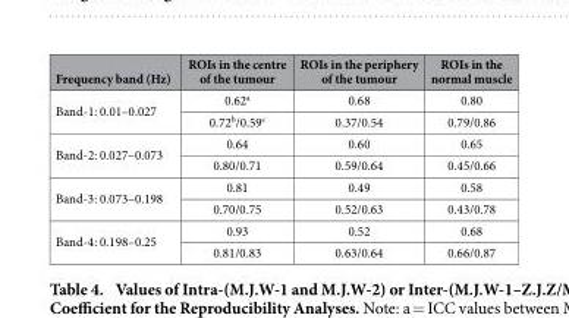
<table><thead><tr><td>Frequency band (Hz)</td><td>ROIs in the centre of the tumour</td><td>ROIs in the periphery of the tumour</td><td>ROIs in the normal muscle</td></tr></thead><tbody><tr><td rowspan="2">Band-1: 0.01–0.027</td><td>0.62<sup>a</sup></td><td>0.68</td><td>0.80</td></tr><tr><td>0.72<sup>b</sup>/0.59<sup>c</sup></td><td>0.37/0.54</td><td>0.79/0.86</td></tr><tr><td rowspan="2">Band-2: 0.027–0.073</td><td>0.64</td><td>0.60</td><td>0.65</td></tr><tr><td>0.80/0.71</td><td>0.59/0.64</td><td>0.45/0.66</td></tr><tr><td rowspan="2">Band-3: 0.073–0.198</td><td>0.81</td><td>0.49</td><td>0.58</td></tr><tr><td>0.70/0.75</td><td>0.52/0.63</td><td>0.43/0.78</td></tr><tr><td rowspan="2">Band-4: 0.198–0.25</td><td>0.93</td><td>0.52</td><td>0.68</td></tr><tr><td>0.81/0.83</td><td>0.63/0.64</td><td>0.66/0.87</td></tr></tbody></table>